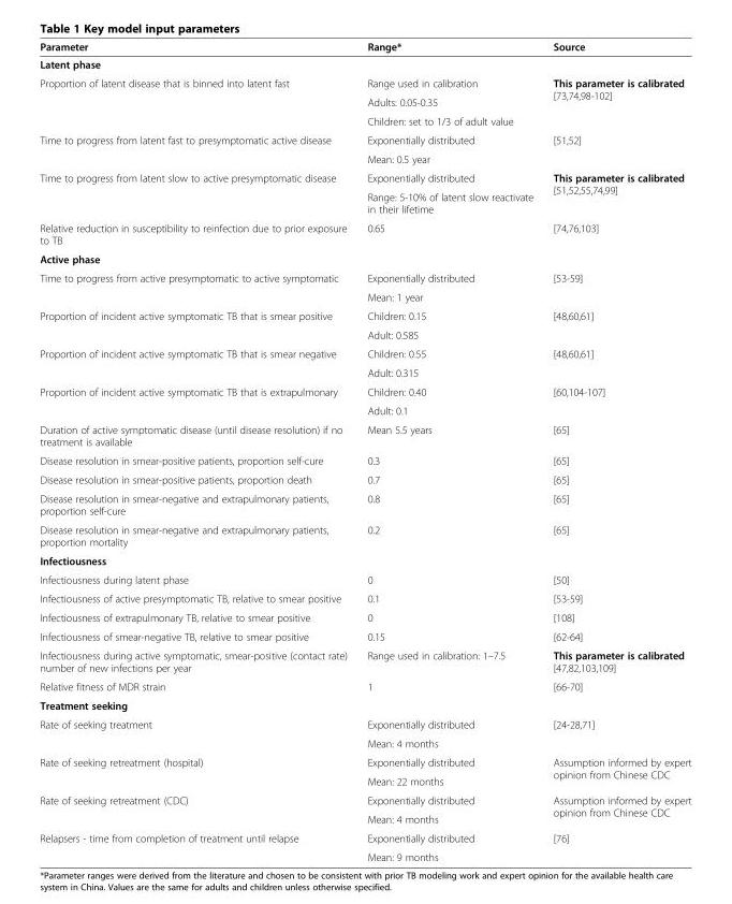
<table><thead><tr><td>Parameter</td><td>Range*</td><td>Source</td></tr></thead><tbody><tr><td colspan="3">Latent phase</td></tr><tr><td rowspan="3">Proportion of latent disease that is binned into latent fast</td><td>Range used in calibration</td><td rowspan="3">This parameter is calibrated [73,74,98-102]</td></tr><tr><td>Adults: 0.05-0.35</td></tr><tr><td>Children: set to 1/3 of adult value</td></tr><tr><td rowspan="2">Time to progress from latent fast to presymptomatic active disease</td><td>Exponentially distributed</td><td rowspan="2">[51,52]</td></tr><tr><td>Mean: 0.5 year</td></tr><tr><td rowspan="2">Time to progress from latent slow to active presymptomatic disease</td><td>Exponentially distributed</td><td rowspan="2">This parameter is calibrated [51,52,55,74,99]</td></tr><tr><td>Range: 5-10% of latent slow reactivate in their lifetime</td></tr><tr><td>Relative reduction in susceptibility to reinfection due to prior exposure to TB</td><td>0.65</td><td>[74,76,103]</td></tr><tr><td colspan="3">Active phase</td></tr><tr><td rowspan="2">Time to progress from active presymptomatic to active symptomatic</td><td>Exponentially distributed</td><td rowspan="2">[53-59]</td></tr><tr><td>Mean: 1 year</td></tr><tr><td rowspan="2">Proportion of incident active symptomatic TB that is smear positive</td><td>Children: 0.15</td><td rowspan="2">[48,60,61]</td></tr><tr><td>Adult: 0.585</td></tr><tr><td rowspan="2">Proportion of incident active symptomatic TB that is smear negative</td><td>Children: 0.55</td><td rowspan="2">[48,60,61]</td></tr><tr><td>Adult: 0.315</td></tr><tr><td rowspan="2">Proportion of incident active symptomatic TB that is extrapulmonary</td><td>Children: 0.40</td><td rowspan="2">[60,104-107]</td></tr><tr><td>Adult: 0.1</td></tr><tr><td>Duration of active symptomatic disease (until disease resolution) if no treatment is available</td><td>Mean 5.5 years</td><td>[65]</td></tr><tr><td>Disease resolution in smear-positive patients, proportion self-cure</td><td>0.3</td><td>[65]</td></tr><tr><td>Disease resolution in smear-positive patients, proportion death</td><td>0.7</td><td>[65]</td></tr><tr><td>Disease resolution in smear-negative and extrapulmonary patients, proportion self-cure</td><td>0.8</td><td>[65]</td></tr><tr><td>Disease resolution in smear-negative and extrapulmonary patients, proportion mortality</td><td>0.2</td><td>[65]</td></tr><tr><td colspan="3">Infectiousness</td></tr><tr><td>Infectiousness during latent phase</td><td>0</td><td>[50]</td></tr><tr><td>Infectiousness of active presymptomatic TB, relative to smear positive</td><td>0.1</td><td>[53-59]</td></tr><tr><td>Infectiousness of extrapulmonary TB, relative to smear positive</td><td>0</td><td>[108]</td></tr><tr><td>Infectiousness of smear-negative TB, relative to smear positive</td><td>0.15</td><td>[62-64]</td></tr><tr><td>Infectiousness during active symptomatic, smear-positive (contact rate) number of new infections per year</td><td>Range used in calibration: 1–7.5</td><td>This parameter is calibrated [47,82,103,109]</td></tr><tr><td>Relative fitness of MDR strain</td><td>1</td><td>[66-70]</td></tr><tr><td colspan="3">Treatment seeking</td></tr><tr><td rowspan="2">Rate of seeking treatment</td><td>Exponentially distributed</td><td rowspan="2">[24-28,71]</td></tr><tr><td>Mean: 4 months</td></tr><tr><td rowspan="2">Rate of seeking retreatment (hospital)</td><td>Exponentially distributed</td><td rowspan="2">Assumption informed by expert opinion from Chinese CDC</td></tr><tr><td>Mean: 22 months</td></tr><tr><td rowspan="2">Rate of seeking retreatment (CDC)</td><td>Exponentially distributed</td><td rowspan="2">Assumption informed by expert opinion from Chinese CDC</td></tr><tr><td>Mean: 4 months</td></tr><tr><td rowspan="2">Relapsers - time from completion of treatment until relapse</td><td>Exponentially distributed</td><td rowspan="2">[76]</td></tr><tr><td>Mean: 9 months</td></tr></tbody></table>